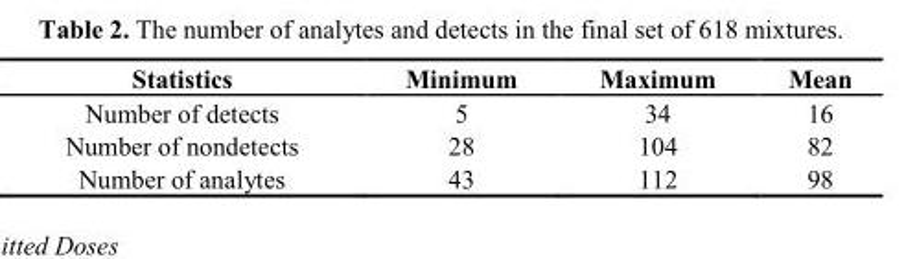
<table><thead><tr><td>Statistics</td><td>Minimum</td><td>Maximum</td><td>Mean</td></tr></thead><tbody><tr><td>Number of detects</td><td>5</td><td>34</td><td>16</td></tr><tr><td>Number of nondetects</td><td>28</td><td>104</td><td>82</td></tr><tr><td>Number of analytes</td><td>43</td><td>112</td><td>98</td></tr></tbody></table>